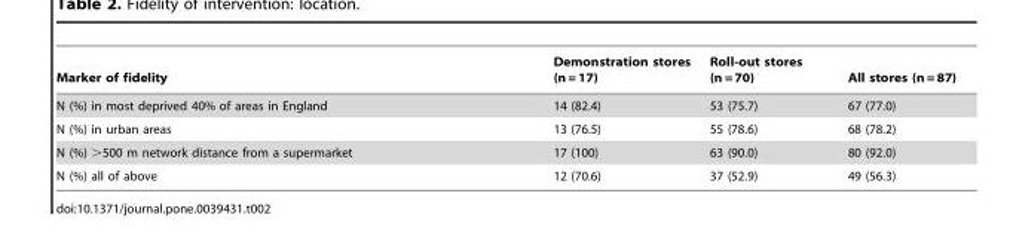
<table><thead><tr><td>Marker of fidelity</td><td>Demonstration stores (n = 17)</td><td>Roll-out stores (n = 70)</td><td>All stores (n = 87)</td></tr></thead><tbody><tr><td>N (%) in most deprived 40% of areas in England</td><td>14 (82.4)</td><td>53 (75.7)</td><td>67 (77.0)</td></tr><tr><td>N (%) in urban areas</td><td>13 (76.5)</td><td>55 (78.6)</td><td>68 (78.2)</td></tr><tr><td>N (%) &gt;500 m network distance from a supermarket</td><td>17 (100)</td><td>63 (90.0)</td><td>80 (92.0)</td></tr><tr><td>N (%) all of above</td><td>12 (70.6)</td><td>37 (52.9)</td><td>49 (56.3)</td></tr></tbody></table>